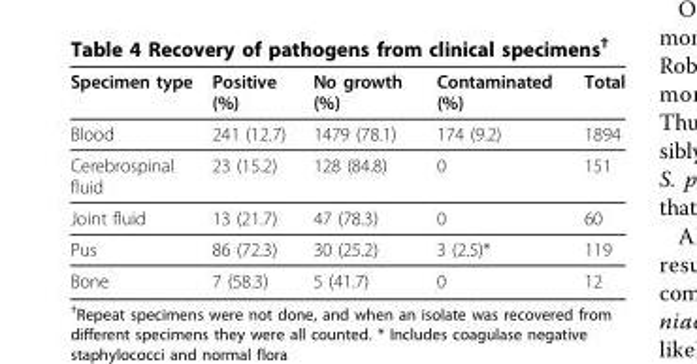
<table><thead><tr><td>Specimen type</td><td>Positive (%)</td><td>No growth (%)</td><td>Contaminated (%)</td><td>Total</td></tr></thead><tbody><tr><td>Blood</td><td>241 (12.7)</td><td>1479 (78.1)</td><td>174 (9.2)</td><td>1894</td></tr><tr><td>Cerebrospinal fluid</td><td>23 (15.2)</td><td>128 (84.8)</td><td>0</td><td>151</td></tr><tr><td>Joint fluid</td><td>13 (21.7)</td><td>47 (78.3)</td><td>0</td><td>60</td></tr><tr><td>Pus</td><td>86 (72.3)</td><td>30 (25.2)</td><td>3 (2.5)*</td><td>119</td></tr><tr><td>Bone</td><td>7 (58.3)</td><td>5 (41.7)</td><td>0</td><td>12</td></tr></tbody></table>